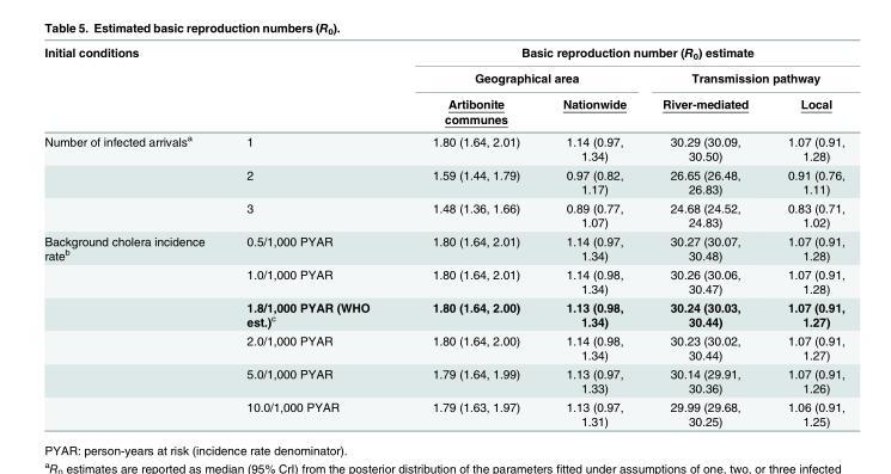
<table><thead><tr><td colspan="2">Initial conditions</td><td colspan="4">Basic reproduction number (R<sub>0</sub>) estimate</td></tr><tr><td rowspan="2"></td><td rowspan="2"></td><td colspan="2">Geographical area</td><td colspan="2">Transmission pathway</td></tr><tr><td>Artibonite communes</td><td>Nationwide</td><td>River-mediated</td><td>Local</td></tr></thead><tbody><tr><td rowspan="3">Number of infected arrivals<sup>a</sup></td><td>1</td><td>1.80 (1.64, 2.01)</td><td>1.14 (0.97, 1.34)</td><td>30.29 (30.09, 30.50)</td><td>1.07 (0.91, 1.28)</td></tr><tr><td>2</td><td>1.59 (1.44, 1.79)</td><td>0.97 (0.82, 1.17)</td><td>26.65 (26.48, 26.83)</td><td>0.91 (0.76, 1.11)</td></tr><tr><td>3</td><td>1.48 (1.36, 1.66)</td><td>0.89 (0.77, 1.07)</td><td>24.68 (24.52, 24.83)</td><td>0.83 (0.71, 1.02)</td></tr><tr><td rowspan="6">Background cholera incidence rate<sup>b</sup></td><td>0.5/1,000 PYAR</td><td>1.80 (1.64, 2.01)</td><td>1.14 (0.97, 1.34)</td><td>30.27 (30.07, 30.48)</td><td>1.07 (0.91, 1.28)</td></tr><tr><td>1.0/1,000 PYAR</td><td>1.80 (1.64, 2.01)</td><td>1.14 (0.98, 1.34)</td><td>30.26 (30.06, 30.47)</td><td>1.07 (0.91, 1.28)</td></tr><tr><td>1.8/1,000 PYAR (WHO est.)<sup>c</sup></td><td>1.80 (1.64, 2.00)</td><td>1.13 (0.98, 1.34)</td><td>30.24 (30.03, 30.44)</td><td>1.07 (0.91, 1.27)</td></tr><tr><td>2.0/1,000 PYAR</td><td>1.80 (1.64, 2.00)</td><td>1.14 (0.98, 1.34)</td><td>30.23 (30.02, 30.44)</td><td>1.07 (0.91, 1.27)</td></tr><tr><td>5.0/1,000 PYAR</td><td>1.79 (1.64, 1.99)</td><td>1.13 (0.97, 1.33)</td><td>30.14 (29.91, 30.36)</td><td>1.07 (0.91, 1.26)</td></tr><tr><td>10.0/1,000 PYAR</td><td>1.79 (1.63, 1.97)</td><td>1.13 (0.97, 1.31)</td><td>29.99 (29.68, 30.25)</td><td>1.06 (0.91, 1.25)</td></tr></tbody></table>